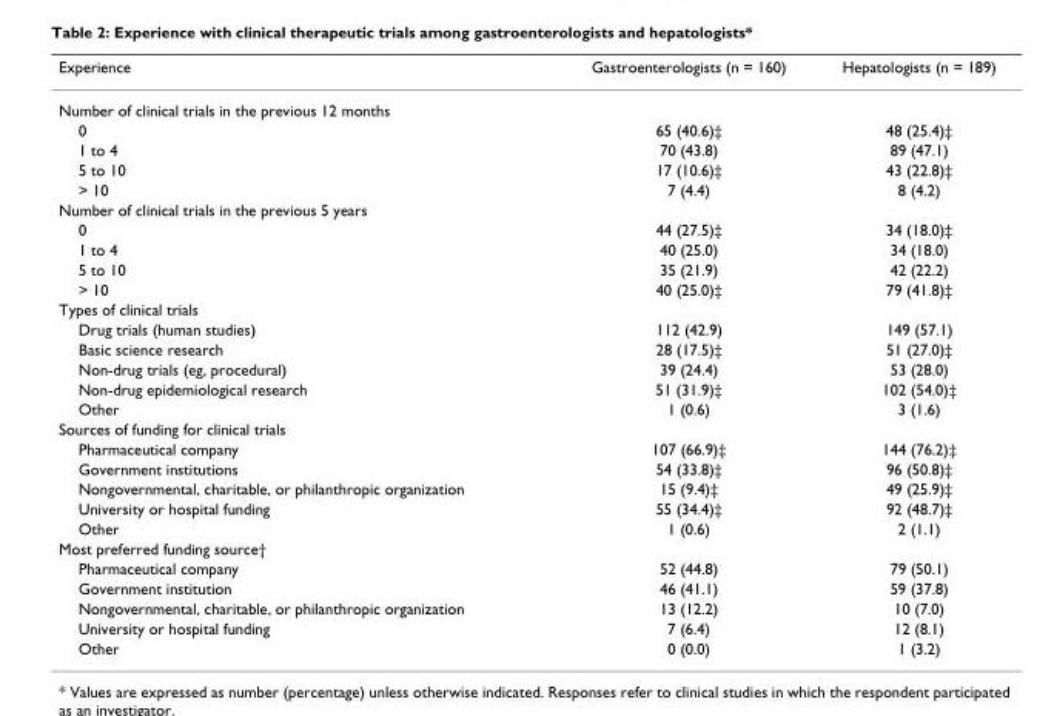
<table><thead><tr><td>Experience</td><td>Gastroenterologists (n = 160)</td><td>Hepatologists (n = 189)</td></tr></thead><tbody><tr><td colspan="3">Number of clinical trials in the previous 12 months</td></tr><tr><td>0</td><td>65 (40.6)‡</td><td>48 (25.4)‡</td></tr><tr><td>1 to 4</td><td>70 (43.8)</td><td>89 (47.1)</td></tr><tr><td>5 to 10</td><td>17 (10.6)‡</td><td>43 (22.8)‡</td></tr><tr><td>&gt; 10</td><td>7 (4.4)</td><td>8 (4.2)</td></tr><tr><td colspan="3">Number of clinical trials in the previous 5 years</td></tr><tr><td>0</td><td>44 (27.5)‡</td><td>34 (18.0)‡</td></tr><tr><td>1 to 4</td><td>40 (25.0)</td><td>34 (18.0)</td></tr><tr><td>5 to 10</td><td>35 (21.9)</td><td>42 (22.2)</td></tr><tr><td>&gt; 10</td><td>40 (25.0)‡</td><td>79 (41.8)‡</td></tr><tr><td colspan="3">Types of clinical trials</td></tr><tr><td>Drug trials (human studies)</td><td>112 (42.9)</td><td>149 (57.1)</td></tr><tr><td>Basic science research</td><td>28 (17.5)‡</td><td>51 (27.0)‡</td></tr><tr><td>Non-drug trials (eg, procedural)</td><td>39 (24.4)</td><td>53 (28.0)</td></tr><tr><td>Non-drug epidemiological research</td><td>51 (31.9)‡</td><td>102 (54.0)‡</td></tr><tr><td>Other</td><td>1 (0.6)</td><td>3 (1.6)</td></tr><tr><td colspan="3">Sources of funding for clinical trials</td></tr><tr><td>Pharmaceutical company</td><td>107 (66.9)‡</td><td>144 (76.2)‡</td></tr><tr><td>Government institutions</td><td>54 (33.8)‡</td><td>96 (50.8)‡</td></tr><tr><td>Nongovernmental, charitable, or philanthropic organization</td><td>15 (9.4)‡</td><td>49 (25.9)‡</td></tr><tr><td>University or hospital funding</td><td>55 (34.4)‡</td><td>92 (48.7)‡</td></tr><tr><td>Other</td><td>1 (0.6)</td><td>2 (1.1)</td></tr><tr><td colspan="3">Most preferred funding source†</td></tr><tr><td>Pharmaceutical company</td><td>52 (44.8)</td><td>79 (50.1)</td></tr><tr><td>Government institution</td><td>46 (41.1)</td><td>59 (37.8)</td></tr><tr><td>Nongovernmental, charitable, or philanthropic organization</td><td>13 (12.2)</td><td>10 (7.0)</td></tr><tr><td>University or hospital funding</td><td>7 (6.4)</td><td>12 (8.1)</td></tr><tr><td>Other</td><td>0 (0.0)</td><td>1 (3.2)</td></tr></tbody></table>